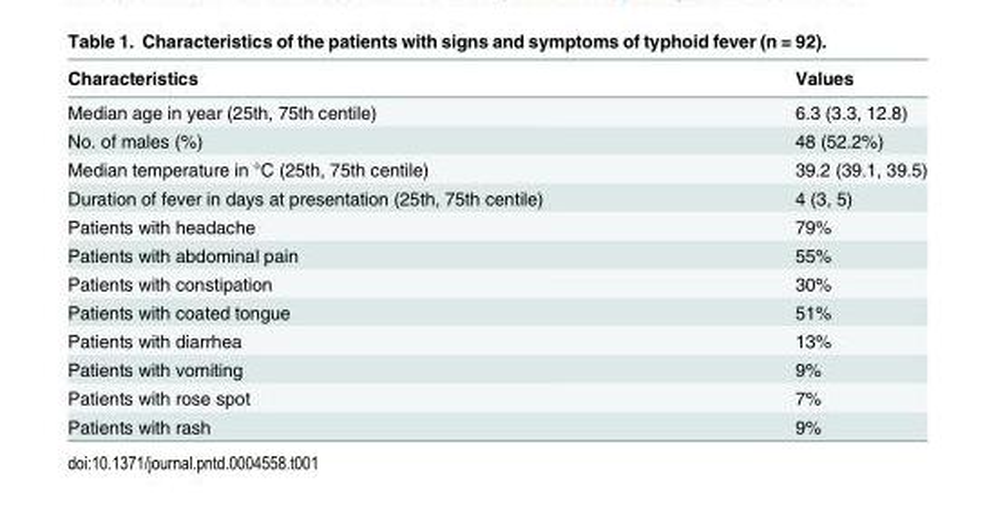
<table><thead><tr><td>Characteristics</td><td>Values</td></tr></thead><tbody><tr><td>Median age in year (25th, 75th centile)</td><td>6.3 (3.3, 12.8)</td></tr><tr><td>No. of males (%)</td><td>48 (52.2%)</td></tr><tr><td>Median temperature in °C (25th, 75th centile)</td><td>39.2 (39.1, 39.5)</td></tr><tr><td>Duration of fever in days at presentation (25th, 75th centile)</td><td>4 (3, 5)</td></tr><tr><td>Patients with headache</td><td>79%</td></tr><tr><td>Patients with abdominal pain</td><td>55%</td></tr><tr><td>Patients with constipation</td><td>30%</td></tr><tr><td>Patients with coated tongue</td><td>51%</td></tr><tr><td>Patients with diarrhea</td><td>13%</td></tr><tr><td>Patients with vomiting</td><td>9%</td></tr><tr><td>Patients with rose spot</td><td>7%</td></tr><tr><td>Patients with rash</td><td>9%</td></tr></tbody></table>